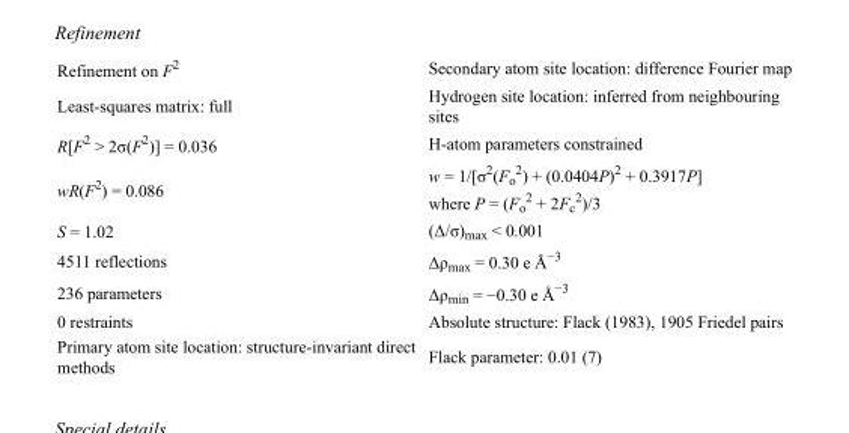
<table><tbody><tr><td>Refinement on F<sup>2</sup></td><td>Secondary atom site location: difference Fourier map</td></tr><tr><td>Least-squares matrix: full</td><td>Hydrogen site location: inferred from neighbouring sites</td></tr><tr><td>R[F<sup>2</sup> &gt; 2σ(F<sup>2</sup>)] = 0.036</td><td>H-atom parameters constrained</td></tr><tr><td>wR(F<sup>2</sup>) = 0.086</td><td>w = 1/[σ<sup>2</sup>(F<sub>o</sub> <sup>2</sup>) + (0.0404P)<sup>2</sup> + 0.3917P] where P = (F<sub>o</sub> <sup>2</sup> + 2F<sub>c</sub> <sup>2</sup>)/3</td></tr><tr><td>S = 1.02</td><td>(Δ/σ)<sub>max</sub> &lt; 0.001</td></tr><tr><td>4511 reflections</td><td>Δρ<sub>max</sub> = 0.30 e Å<sup>−3</sup></td></tr><tr><td>236 parameters</td><td>Δρ<sub>min</sub> = −0.30 e Å<sup>−3</sup></td></tr><tr><td>0 restraints</td><td>Absolute structure: Flack (1983), 1905 Friedel pairs</td></tr><tr><td>Primary atom site location: structure-invariant direct methods</td><td>Flack parameter: 0.01 (7)</td></tr></tbody></table>